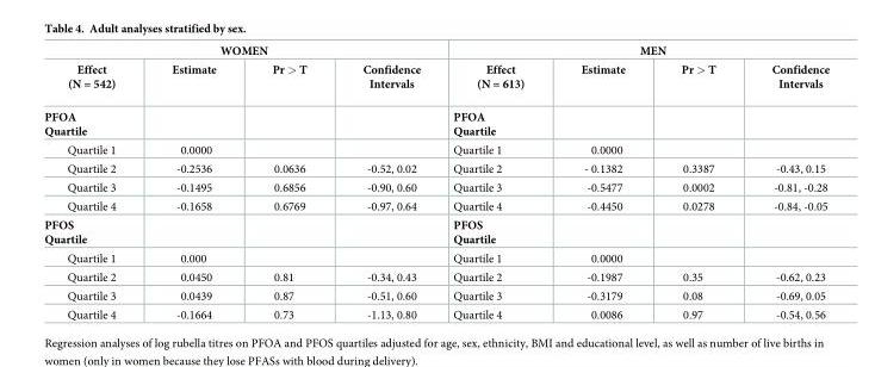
<table><thead><tr><td colspan="4">WOMEN</td><td colspan="4">MEN</td></tr><tr><td>Effect (N = 542)</td><td>Estimate</td><td>Pr &gt; T</td><td>Confidence Intervals</td><td>Effect (N = 613)</td><td>Estimate</td><td>Pr &gt; T</td><td>Confidence Intervals</td></tr></thead><tbody><tr><td>PFOA Quartile</td><td></td><td></td><td></td><td>PFOA Quartile</td><td></td><td></td><td></td></tr><tr><td>Quartile 1</td><td>0.0000</td><td></td><td></td><td>Quartile 1</td><td>0.0000</td><td></td><td></td></tr><tr><td>Quartile 2</td><td>-0.2536</td><td>0.0636</td><td>-0.52, 0.02</td><td>Quartile 2</td><td>- 0.1382</td><td>0.3387</td><td>-0.43, 0.15</td></tr><tr><td>Quartile 3</td><td>-0.1495</td><td>0.6856</td><td>-0.90, 0.60</td><td>Quartile 3</td><td>-0.5477</td><td>0.0002</td><td>-0.81, -0.28</td></tr><tr><td>Quartile 4</td><td>-0.1658</td><td>0.6769</td><td>-0.97, 0.64</td><td>Quartile 4</td><td>-0.4450</td><td>0.0278</td><td>-0.84, -0.05</td></tr><tr><td>PFOS Quartile</td><td></td><td></td><td></td><td>PFOS Quartile</td><td></td><td></td><td></td></tr><tr><td>Quartile 1</td><td>0.000</td><td></td><td></td><td>Quartile 1</td><td>0.0000</td><td></td><td></td></tr><tr><td>Quartile 2</td><td>0.0450</td><td>0.81</td><td>-0.34, 0.43</td><td>Quartile 2</td><td>-0.1987</td><td>0.35</td><td>-0.62, 0.23</td></tr><tr><td>Quartile 3</td><td>0.0439</td><td>0.87</td><td>-0.51, 0.60</td><td>Quartile 3</td><td>-0.3179</td><td>0.08</td><td>-0.69, 0.05</td></tr><tr><td>Quartile 4</td><td>-0.1664</td><td>0.73</td><td>-1.13, 0.80</td><td>Quartile 4</td><td>0.0086</td><td>0.97</td><td>-0.54, 0.56</td></tr></tbody></table>